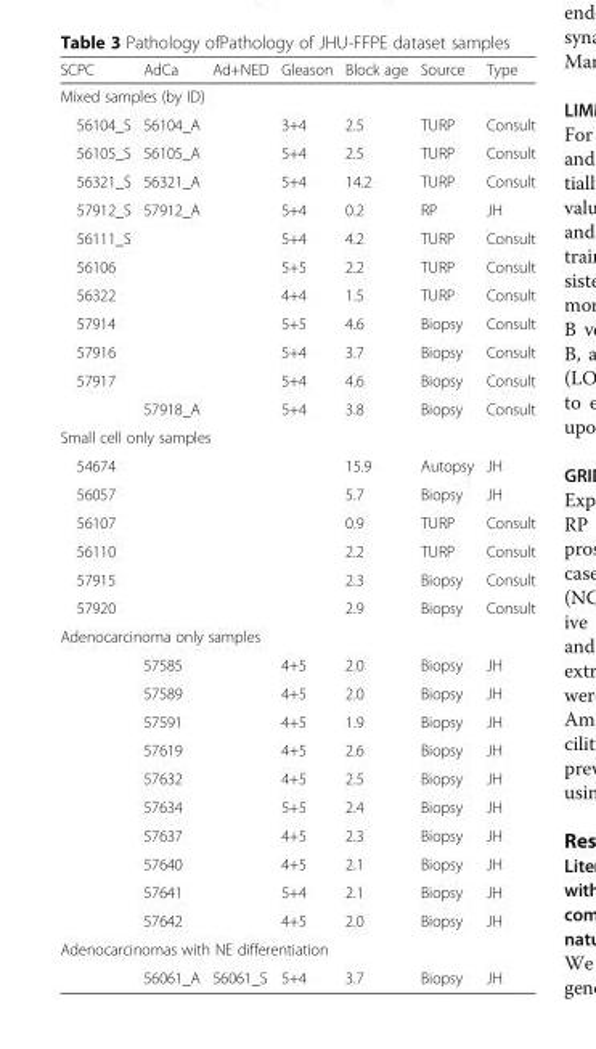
<table><thead><tr><td>SCPC</td><td>AdCa</td><td>Ad+NED</td><td>Gleason</td><td>Block age</td><td>Source</td><td>Type</td></tr></thead><tbody><tr><td colspan="7">Mixed samples (by ID)</td></tr><tr><td>56104_S</td><td>56104_A</td><td></td><td>3+4</td><td>2.5</td><td>TURP</td><td>Consult</td></tr><tr><td>56105_S</td><td>56105_A</td><td></td><td>5+4</td><td>2.5</td><td>TURP</td><td>Consult</td></tr><tr><td>56321_S</td><td>56321_A</td><td></td><td>5+4</td><td>14.2</td><td>TURP</td><td>Consult</td></tr><tr><td>57912_S</td><td>57912_A</td><td></td><td>5+4</td><td>0.2</td><td>RP</td><td>JH</td></tr><tr><td>56111_S</td><td></td><td></td><td>5+4</td><td>4.2</td><td>TURP</td><td>Consult</td></tr><tr><td>56106</td><td></td><td></td><td>5+5</td><td>2.2</td><td>TURP</td><td>Consult</td></tr><tr><td>56322</td><td></td><td></td><td>4+4</td><td>1.5</td><td>TURP</td><td>Consult</td></tr><tr><td>57914</td><td></td><td></td><td>5+5</td><td>4.6</td><td>Biopsy</td><td>Consult</td></tr><tr><td>57916</td><td></td><td></td><td>5+4</td><td>3.7</td><td>Biopsy</td><td>Consult</td></tr><tr><td rowspan="2">57917</td><td></td><td></td><td>5+4</td><td>4.6</td><td>Biopsy</td><td>Consult</td></tr><tr><td>57918_A</td><td></td><td>5+4</td><td>3.8</td><td>Biopsy</td><td>Consult</td></tr><tr><td colspan="7">Small cell only samples</td></tr><tr><td>54674</td><td></td><td></td><td></td><td>15.9</td><td>Autopsy</td><td>JH</td></tr><tr><td>56057</td><td></td><td></td><td></td><td>5.7</td><td>Biopsy</td><td>JH</td></tr><tr><td>56107</td><td></td><td></td><td></td><td>0.9</td><td>TURP</td><td>Consult</td></tr><tr><td>56110</td><td></td><td></td><td></td><td>2.2</td><td>TURP</td><td>Consult</td></tr><tr><td>57915</td><td></td><td></td><td></td><td>2.3</td><td>Biopsy</td><td>Consult</td></tr><tr><td>57920</td><td></td><td></td><td></td><td>2.9</td><td>Biopsy</td><td>Consult</td></tr><tr><td colspan="7">Adenocarcinoma only samples</td></tr><tr><td></td><td>57585</td><td></td><td>4+5</td><td>2.0</td><td>Biopsy</td><td>JH</td></tr><tr><td></td><td>57589</td><td></td><td>4+5</td><td>2.0</td><td>Biopsy</td><td>JH</td></tr><tr><td></td><td>57591</td><td></td><td>4+5</td><td>1.9</td><td>Biopsy</td><td>JH</td></tr><tr><td></td><td>57619</td><td></td><td>4+5</td><td>2.6</td><td>Biopsy</td><td>JH</td></tr><tr><td></td><td>57632</td><td></td><td>4+5</td><td>2.5</td><td>Biopsy</td><td>JH</td></tr><tr><td></td><td>57634</td><td></td><td>5+5</td><td>2.4</td><td>Biopsy</td><td>JH</td></tr><tr><td></td><td>57637</td><td></td><td>4+5</td><td>2.3</td><td>Biopsy</td><td>JH</td></tr><tr><td></td><td>57640</td><td></td><td>4+5</td><td>2.1</td><td>Biopsy</td><td>JH</td></tr><tr><td></td><td>57641</td><td></td><td>5+4</td><td>2.1</td><td>Biopsy</td><td>JH</td></tr><tr><td></td><td>57642</td><td></td><td>4+5</td><td>2.0</td><td>Biopsy</td><td>JH</td></tr><tr><td colspan="7">Adenocarcinomas with NE differentiation</td></tr><tr><td></td><td>56061_A</td><td>56061_S</td><td>5+4</td><td>3.7</td><td>Biopsy</td><td>JH</td></tr></tbody></table>